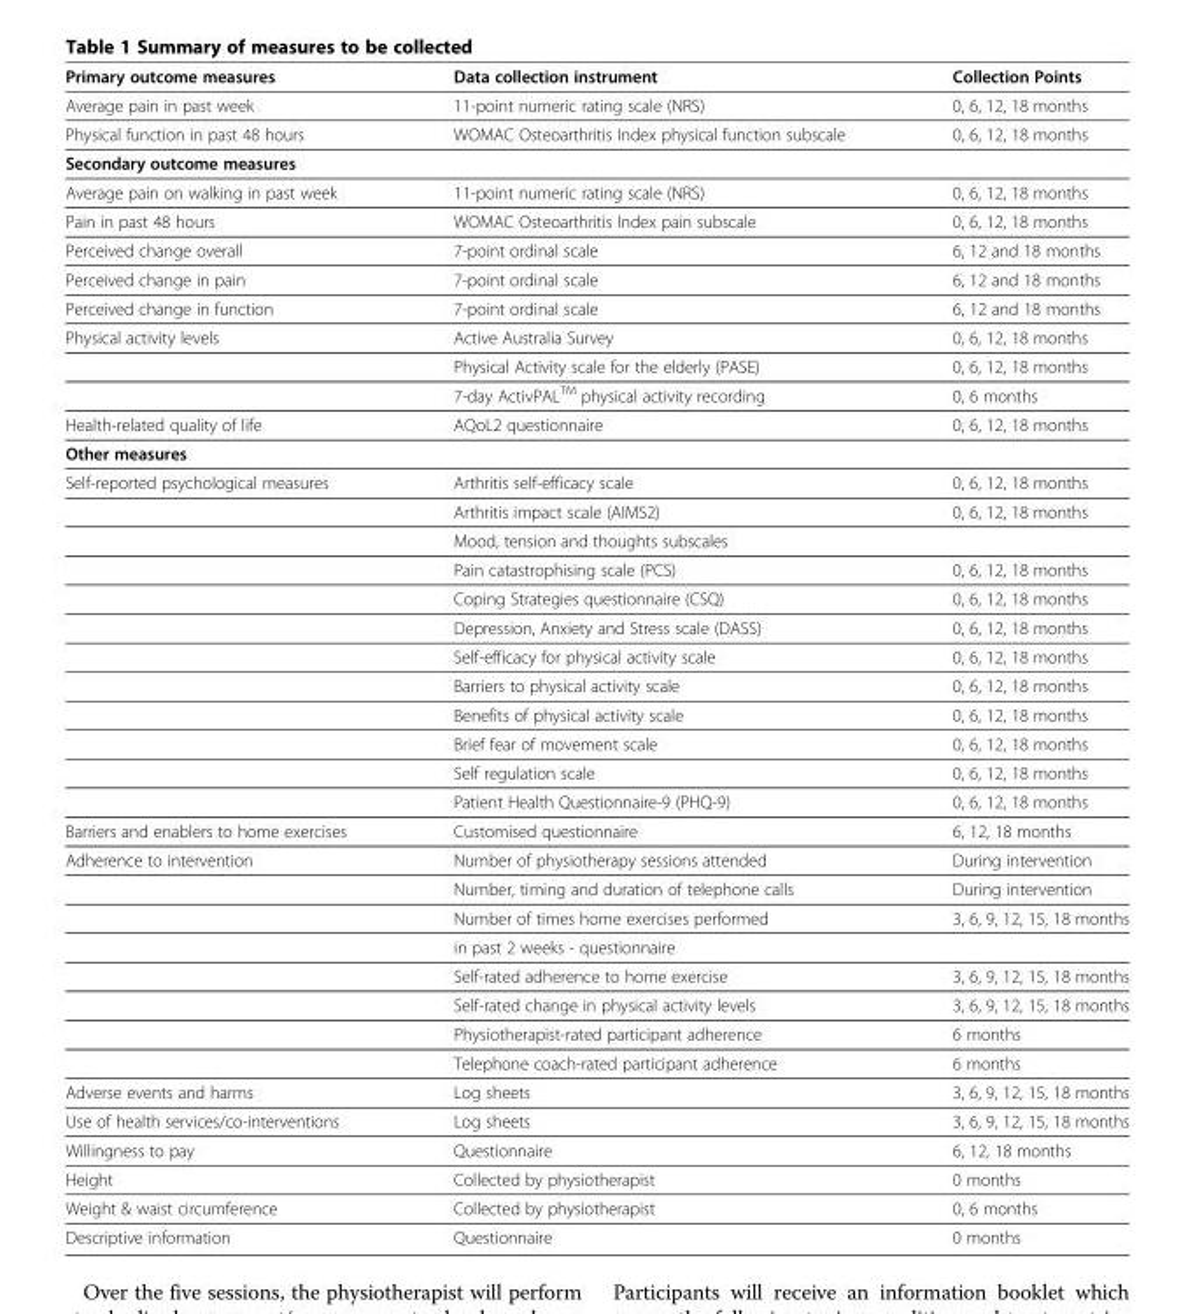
<table><thead><tr><td>Primary outcome measures</td><td>Data collection instrument</td><td>Collection Points</td></tr></thead><tbody><tr><td>Average pain in past week</td><td>11-point numeric rating scale (NRS)</td><td>0, 6, 12, 18 months</td></tr><tr><td>Physical function in past 48 hours</td><td>WOMAC Osteoarthritis Index physical function subscale</td><td>0, 6, 12, 18 months</td></tr><tr><td colspan="3">Secondary outcome measures</td></tr><tr><td>Average pain on walking in past week</td><td>11-point numeric rating scale (NRS)</td><td>0, 6, 12, 18 months</td></tr><tr><td>Pain in past 48 hours</td><td>WOMAC Osteoarthritis Index pain subscale</td><td>0, 6, 12, 18 months</td></tr><tr><td>Perceived change overall</td><td>7-point ordinal scale</td><td>6, 12 and 18 months</td></tr><tr><td>Perceived change in pain</td><td>7-point ordinal scale</td><td>6, 12 and 18 months</td></tr><tr><td>Perceived change in function</td><td>7-point ordinal scale</td><td>6, 12 and 18 months</td></tr><tr><td rowspan="3">Physical activity levels</td><td>Active Australia Survey</td><td>0, 6, 12, 18 months</td></tr><tr><td>Physical Activity scale for the elderly (PASE)</td><td>0, 6, 12, 18 months</td></tr><tr><td>7-day ActivPAL<sup>TM</sup> physical activity recording</td><td>0, 6 months</td></tr><tr><td>Health-related quality of life</td><td>AQoL2 questionnaire</td><td>0, 6, 12, 18 months</td></tr><tr><td colspan="3">Other measures</td></tr><tr><td rowspan="12">Self-reported psychological measures</td><td>Arthritis self-efficacy scale</td><td>0, 6, 12, 18 months</td></tr><tr><td>Arthritis impact scale (AIMS2)</td><td>0, 6, 12, 18 months</td></tr><tr><td>Mood, tension and thoughts subscales</td><td></td></tr><tr><td>Pain catastrophising scale (PCS)</td><td>0, 6, 12, 18 months</td></tr><tr><td>Coping Strategies questionnaire (CSQ)</td><td>0, 6, 12, 18 months</td></tr><tr><td>Depression, Anxiety and Stress scale (DASS)</td><td>0, 6, 12, 18 months</td></tr><tr><td>Self-efficacy for physical activity scale</td><td>0, 6, 12, 18 months</td></tr><tr><td>Barriers to physical activity scale</td><td>0, 6, 12, 18 months</td></tr><tr><td>Benefits of physical activity scale</td><td>0, 6, 12, 18 months</td></tr><tr><td>Brief fear of movement scale</td><td>0, 6, 12, 18 months</td></tr><tr><td>Self regulation scale</td><td>0, 6, 12, 18 months</td></tr><tr><td>Patient Health Questionnaire-9 (PHQ-9)</td><td>0, 6, 12, 18 months</td></tr><tr><td>Barriers and enablers to home exercises</td><td>Customised questionnaire</td><td>6, 12, 18 months</td></tr><tr><td rowspan="8">Adherence to intervention</td><td>Number of physiotherapy sessions attended</td><td>During intervention</td></tr><tr><td>Number, timing and duration of telephone calls</td><td>During intervention</td></tr><tr><td>Number of times home exercises performed</td><td>3, 6, 9, 12, 15, 18 months</td></tr><tr><td>in past 2 weeks - questionnaire</td><td></td></tr><tr><td>Self-rated adherence to home exercise</td><td>3, 6, 9, 12, 15, 18 months</td></tr><tr><td>Self-rated change in physical activity levels</td><td>3, 6, 9, 12, 15, 18 months</td></tr><tr><td>Physiotherapist-rated participant adherence</td><td>6 months</td></tr><tr><td>Telephone coach-rated participant adherence</td><td>6 months</td></tr><tr><td>Adverse events and harms</td><td>Log sheets</td><td>3, 6, 9, 12, 15, 18 months</td></tr><tr><td>Use of health services/co-interventions</td><td>Log sheets</td><td>3, 6, 9, 12, 15, 18 months</td></tr><tr><td>Willingness to pay</td><td>Questionnaire</td><td>6, 12, 18 months</td></tr><tr><td>Height</td><td>Collected by physiotherapist</td><td>0 months</td></tr><tr><td>Weight &amp; waist circumference</td><td>Collected by physiotherapist</td><td>0, 6 months</td></tr><tr><td>Descriptive information</td><td>Questionnaire</td><td>0 months</td></tr></tbody></table>